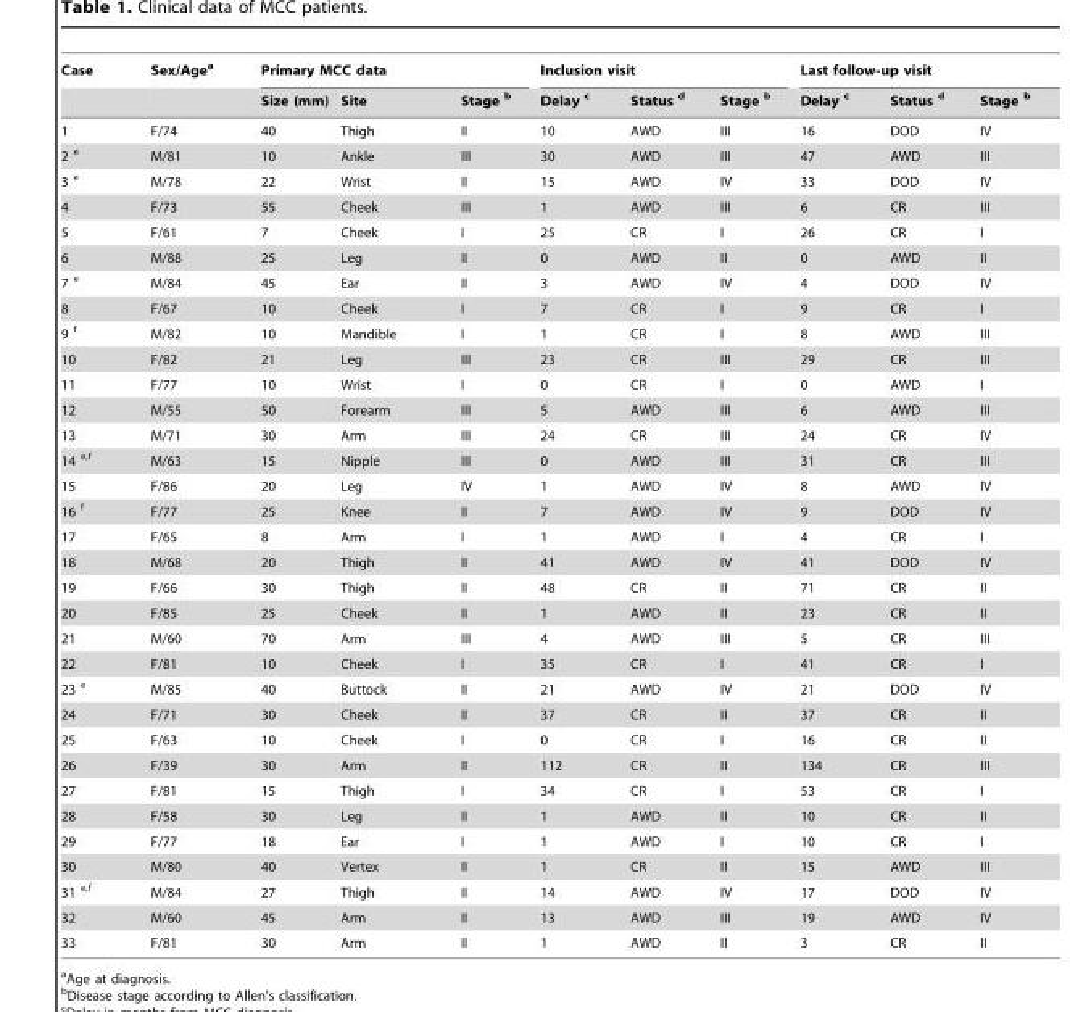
<table><thead><tr><td rowspan="2">Case</td><td rowspan="2">Sex/Age<sup>a</sup></td><td colspan="3">Primary MCC data</td><td colspan="3">Inclusion visit</td><td colspan="3">Last follow-up visit</td></tr><tr><td>Size (mm)</td><td>Site</td><td>Stage b</td><td>Delay c</td><td>Status d</td><td>Stage b</td><td>Delay c</td><td>Status d</td><td>Stage b</td></tr></thead><tbody><tr><td>1</td><td>F/74</td><td>40</td><td>Thigh</td><td>II</td><td>10</td><td>AWD</td><td>III</td><td>16</td><td>DOD</td><td>IV</td></tr><tr><td>2 e</td><td>M/81</td><td>10</td><td>Ankle</td><td>III</td><td>30</td><td>AWD</td><td>III</td><td>47</td><td>AWD</td><td>III</td></tr><tr><td>3 e</td><td>M/78</td><td>22</td><td>Wrist</td><td>II</td><td>15</td><td>AWD</td><td>IV</td><td>33</td><td>DOD</td><td>IV</td></tr><tr><td>4</td><td>F/73</td><td>55</td><td>Cheek</td><td>III</td><td>1</td><td>AWD</td><td>III</td><td>6</td><td>CR</td><td>III</td></tr><tr><td>5</td><td>F/61</td><td>7</td><td>Cheek</td><td>I</td><td>25</td><td>CR</td><td>I</td><td>26</td><td>CR</td><td>I</td></tr><tr><td>6</td><td>M/88</td><td>25</td><td>Leg</td><td>II</td><td>0</td><td>AWD</td><td>II</td><td>0</td><td>AWD</td><td>II</td></tr><tr><td>7 e</td><td>M/84</td><td>45</td><td>Ear</td><td>II</td><td>3</td><td>AWD</td><td>IV</td><td>4</td><td>DOD</td><td>IV</td></tr><tr><td>8</td><td>F/67</td><td>10</td><td>Cheek</td><td>I</td><td>7</td><td>CR</td><td>I</td><td>9</td><td>CR</td><td>I</td></tr><tr><td>9 f</td><td>M/82</td><td>10</td><td>Mandible</td><td>I</td><td>1</td><td>CR</td><td>I</td><td>8</td><td>AWD</td><td>III</td></tr><tr><td>10</td><td>F/82</td><td>21</td><td>Leg</td><td>III</td><td>23</td><td>CR</td><td>III</td><td>29</td><td>CR</td><td>III</td></tr><tr><td>11</td><td>F/77</td><td>10</td><td>Wrist</td><td>I</td><td>0</td><td>CR</td><td>I</td><td>0</td><td>AWD</td><td>I</td></tr><tr><td>12</td><td>M/55</td><td>50</td><td>Forearm</td><td>III</td><td>5</td><td>AWD</td><td>III</td><td>6</td><td>AWD</td><td>III</td></tr><tr><td>13</td><td>M/71</td><td>30</td><td>Arm</td><td>III</td><td>24</td><td>CR</td><td>III</td><td>24</td><td>CR</td><td>IV</td></tr><tr><td>14 e,f</td><td>M/63</td><td>15</td><td>Nipple</td><td>III</td><td>0</td><td>AWD</td><td>III</td><td>31</td><td>CR</td><td>III</td></tr><tr><td>15</td><td>F/86</td><td>20</td><td>Leg</td><td>IV</td><td>1</td><td>AWD</td><td>IV</td><td>8</td><td>AWD</td><td>IV</td></tr><tr><td>16 f</td><td>F/77</td><td>25</td><td>Knee</td><td>II</td><td>7</td><td>AWD</td><td>IV</td><td>9</td><td>DOD</td><td>IV</td></tr><tr><td>17</td><td>F/65</td><td>8</td><td>Arm</td><td>I</td><td>1</td><td>AWD</td><td>I</td><td>4</td><td>CR</td><td>I</td></tr><tr><td>18</td><td>M/68</td><td>20</td><td>Thigh</td><td>II</td><td>41</td><td>AWD</td><td>IV</td><td>41</td><td>DOD</td><td>IV</td></tr><tr><td>19</td><td>F/66</td><td>30</td><td>Thigh</td><td>II</td><td>48</td><td>CR</td><td>II</td><td>71</td><td>CR</td><td>II</td></tr><tr><td>20</td><td>F/85</td><td>25</td><td>Cheek</td><td>II</td><td>1</td><td>AWD</td><td>II</td><td>23</td><td>CR</td><td>II</td></tr><tr><td>21</td><td>M/60</td><td>70</td><td>Arm</td><td>III</td><td>4</td><td>AWD</td><td>III</td><td>5</td><td>CR</td><td>III</td></tr><tr><td>22</td><td>F/81</td><td>10</td><td>Cheek</td><td>I</td><td>35</td><td>CR</td><td>I</td><td>41</td><td>CR</td><td>I</td></tr><tr><td>23 e</td><td>M/85</td><td>40</td><td>Buttock</td><td>II</td><td>21</td><td>AWD</td><td>IV</td><td>21</td><td>DOD</td><td>IV</td></tr><tr><td>24</td><td>F/71</td><td>30</td><td>Cheek</td><td>II</td><td>37</td><td>CR</td><td>II</td><td>37</td><td>CR</td><td>II</td></tr><tr><td>25</td><td>F/63</td><td>10</td><td>Cheek</td><td>I</td><td>0</td><td>CR</td><td>I</td><td>16</td><td>CR</td><td>II</td></tr><tr><td>26</td><td>F/39</td><td>30</td><td>Arm</td><td>II</td><td>112</td><td>CR</td><td>II</td><td>134</td><td>CR</td><td>III</td></tr><tr><td>27</td><td>F/81</td><td>15</td><td>Thigh</td><td>I</td><td>34</td><td>CR</td><td>I</td><td>53</td><td>CR</td><td>I</td></tr><tr><td>28</td><td>F/58</td><td>30</td><td>Leg</td><td>II</td><td>1</td><td>AWD</td><td>II</td><td>10</td><td>CR</td><td>II</td></tr><tr><td>29</td><td>F/77</td><td>18</td><td>Ear</td><td>I</td><td>1</td><td>AWD</td><td>I</td><td>10</td><td>CR</td><td>I</td></tr><tr><td>30</td><td>M/80</td><td>40</td><td>Vertex</td><td>II</td><td>1</td><td>CR</td><td>II</td><td>15</td><td>AWD</td><td>III</td></tr><tr><td>31 e,f</td><td>M/84</td><td>27</td><td>Thigh</td><td>II</td><td>14</td><td>AWD</td><td>IV</td><td>17</td><td>DOD</td><td>IV</td></tr><tr><td>32</td><td>M/60</td><td>45</td><td>Arm</td><td>II</td><td>13</td><td>AWD</td><td>III</td><td>19</td><td>AWD</td><td>IV</td></tr><tr><td>33</td><td>F/81</td><td>30</td><td>Arm</td><td>II</td><td>1</td><td>AWD</td><td>II</td><td>3</td><td>CR</td><td>II</td></tr></tbody></table>